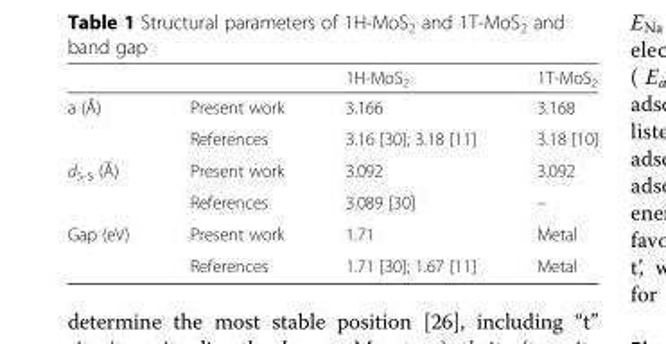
<table><thead><tr><td></td><td></td><td>1H-MoS<sub>2</sub></td><td>1T-MoS<sub>2</sub></td></tr></thead><tbody><tr><td rowspan="2">a (Å)</td><td>Present work</td><td>3.166</td><td>3.168</td></tr><tr><td>References</td><td>3.16 [30]; 3.18 [11]</td><td>3.18 [10]</td></tr><tr><td rowspan="2">d<sub>S-S</sub> (Å)</td><td>Present work</td><td>3.092</td><td>3.092</td></tr><tr><td>References</td><td>3.089 [30]</td><td>–</td></tr><tr><td rowspan="2">Gap (eV)</td><td>Present work</td><td>1.71</td><td>Metal</td></tr><tr><td>References</td><td>1.71 [30]; 1.67 [11]</td><td>Metal</td></tr></tbody></table>